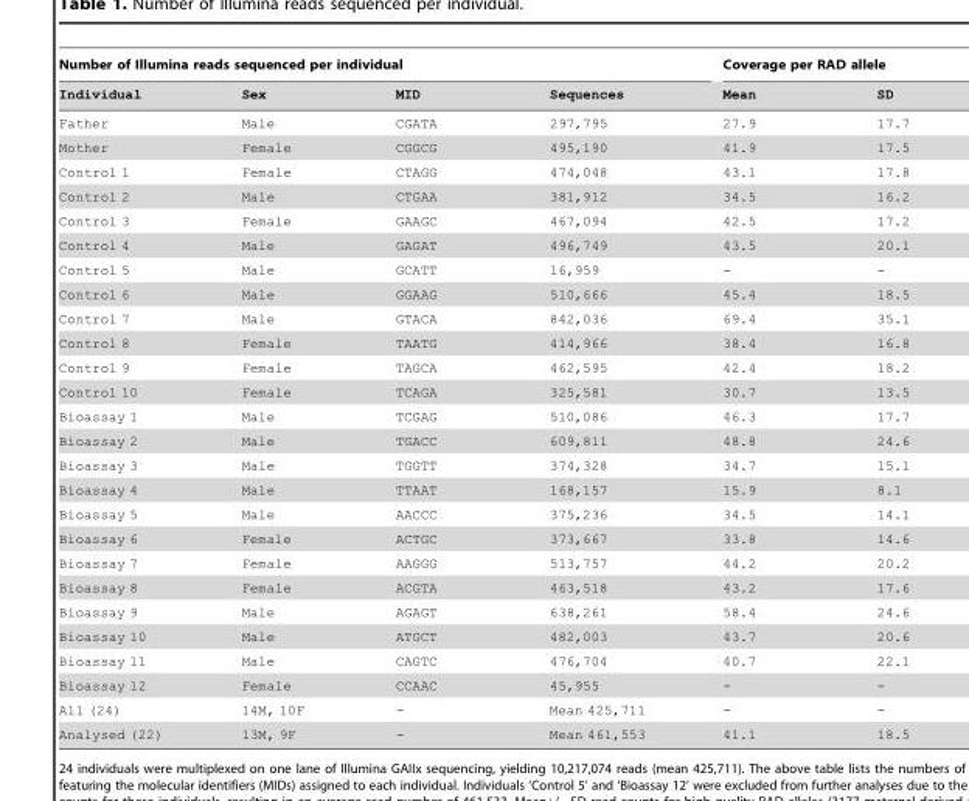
<table><thead><tr><td colspan="4">Number of Illumina reads sequenced per individual</td><td colspan="2">Coverage per RAD allele</td></tr><tr><td>Individual</td><td>Sex</td><td>MID</td><td>Sequences</td><td>Mean</td><td>SD</td></tr></thead><tbody><tr><td>Father</td><td>Male</td><td>CGATA</td><td>297,795</td><td>27.9</td><td>17.7</td></tr><tr><td>Mother</td><td>Female</td><td>CGGCG</td><td>495,190</td><td>41.9</td><td>17.5</td></tr><tr><td>Control 1</td><td>Female</td><td>CTAGG</td><td>474,048</td><td>43.1</td><td>17.8</td></tr><tr><td>Control 2</td><td>Male</td><td>CTGAA</td><td>381,912</td><td>34.5</td><td>16.2</td></tr><tr><td>Control 3</td><td>Female</td><td>GAAGC</td><td>467,094</td><td>42.5</td><td>17.2</td></tr><tr><td>Control 4</td><td>Male</td><td>GAGAT</td><td>496,749</td><td>43.5</td><td>20.1</td></tr><tr><td>Control 5</td><td>Male</td><td>GCATT</td><td>16,959</td><td>-</td><td>-</td></tr><tr><td>Control 6</td><td>Male</td><td>GGAAG</td><td>510,666</td><td>45.4</td><td>18.5</td></tr><tr><td>Control 7</td><td>Male</td><td>GTACA</td><td>842,036</td><td>69.4</td><td>35.1</td></tr><tr><td>Control 8</td><td>Female</td><td>TAATG</td><td>414,966</td><td>38.4</td><td>16.8</td></tr><tr><td>Control 9</td><td>Female</td><td>TAGCA</td><td>462,595</td><td>42.4</td><td>18.2</td></tr><tr><td>Control 10</td><td>Female</td><td>TCAGA</td><td>325,581</td><td>30.7</td><td>13.5</td></tr><tr><td>Bioassay 1</td><td>Male</td><td>TCGAG</td><td>510,086</td><td>46.3</td><td>17.7</td></tr><tr><td>Bioassay 2</td><td>Male</td><td>TGACC</td><td>609,811</td><td>48.8</td><td>24.6</td></tr><tr><td>Bioassay 3</td><td>Male</td><td>TGGTT</td><td>374,328</td><td>34.7</td><td>15.1</td></tr><tr><td>Bioassay 4</td><td>Male</td><td>TTAAT</td><td>168,157</td><td>15.9</td><td>8.1</td></tr><tr><td>Bioassay 5</td><td>Male</td><td>AACCC</td><td>375,236</td><td>34.5</td><td>14.1</td></tr><tr><td>Bioassay 6</td><td>Female</td><td>ACTGC</td><td>373,667</td><td>33.8</td><td>14.6</td></tr><tr><td>Bioassay 7</td><td>Female</td><td>AAGGG</td><td>513,757</td><td>44.2</td><td>20.2</td></tr><tr><td>Bioassay 8</td><td>Female</td><td>ACGTA</td><td>463,518</td><td>43.2</td><td>17.6</td></tr><tr><td>Bioassay 9</td><td>Male</td><td>AGAGT</td><td>638,261</td><td>58.4</td><td>24.6</td></tr><tr><td>Bioassay 10</td><td>Male</td><td>ATGCT</td><td>482,003</td><td>43.7</td><td>20.6</td></tr><tr><td>Bioassay 11</td><td>Male</td><td>CAGTC</td><td>476,704</td><td>40.7</td><td>22.1</td></tr><tr><td>Bioassay 12</td><td>Female</td><td>CCAAC</td><td>45,955</td><td>-</td><td>-</td></tr><tr><td>All (24)</td><td>14M, 10F</td><td>-</td><td>Mean 425,711</td><td>-</td><td>-</td></tr><tr><td>Analysed (22)</td><td>13M, 9F</td><td>-</td><td>Mean 461,553</td><td>41.1</td><td>18.5</td></tr></tbody></table>